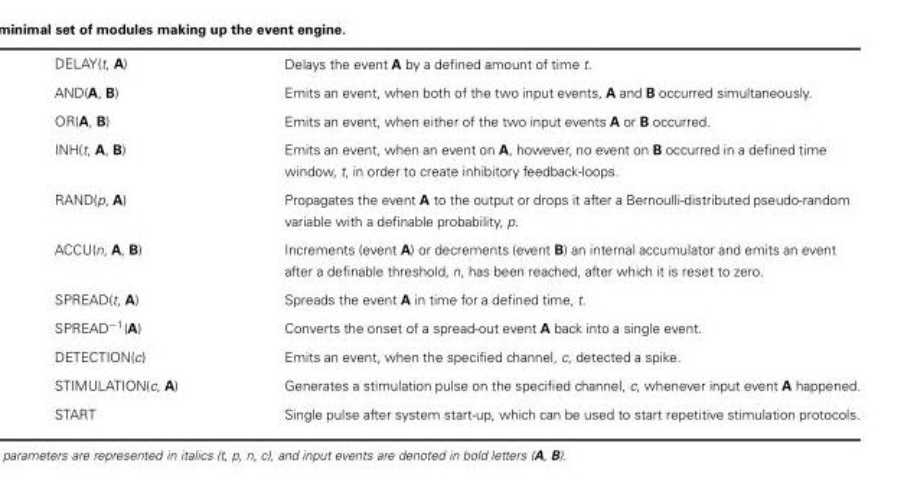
<table><tbody><tr><td>DELAY(t, A)</td><td>Delays the event A by a defined amount of time t.</td></tr><tr><td>AND(A, B)</td><td>Emits an event, when both of the two input events, A and B occurred simultaneously.</td></tr><tr><td>OR(A, B)</td><td>Emits an event, when either of the two input events A or B occurred.</td></tr><tr><td>INH(t, A, B)</td><td>Emits an event, when an event on A, however, no event on B occurred in a defined time window, t, in order to create inhibitory feedback-loops.</td></tr><tr><td>RAND(p, A)</td><td>Propagates the event A to the output or drops it after a Bernoulli-distributed pseudo-random variable with a definable probability, p.</td></tr><tr><td>ACCU(n, A, B)</td><td>Increments (event A) or decrements (event B) an internal accumulator and emits an event after a definable threshold, n, has been reached, after which it is reset to zero.</td></tr><tr><td>SPREAD(t, A)</td><td>Spreads the event A in time for a defined time, t.</td></tr><tr><td>SPREAD<sup>−1</sup>(A)</td><td>Converts the onset of a spread-out event A back into a single event.</td></tr><tr><td>DETECTION(c)</td><td>Emits an event, when the specified channel, c, detected a spike.</td></tr><tr><td>STIMULATION(c, A)</td><td>Generates a stimulation pulse on the specified channel, c, whenever input event A happened.</td></tr><tr><td>START</td><td>Single pulse after system start-up, which can be used to start repetitive stimulation protocols.</td></tr></tbody></table>